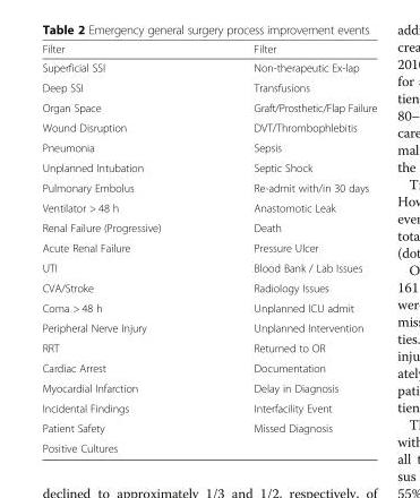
<table><thead><tr><td>Filter</td><td>Filter</td></tr></thead><tbody><tr><td>Superficial SSI</td><td>Non-therapeutic Ex-lap</td></tr><tr><td>Deep SSI</td><td>Transfusions</td></tr><tr><td>Organ Space</td><td>Graft/Prosthetic/Flap Failure</td></tr><tr><td>Wound Disruption</td><td>DVT/Thrombophlebitis</td></tr><tr><td>Pneumonia</td><td>Sepsis</td></tr><tr><td>Unplanned Intubation</td><td>Septic Shock</td></tr><tr><td>Pulmonary Embolus</td><td>Re-admit with/in 30 days</td></tr><tr><td>Ventilator &gt; 48 h</td><td>Anastomotic Leak</td></tr><tr><td>Renal Failure (Progressive)</td><td>Death</td></tr><tr><td>Acute Renal Failure</td><td>Pressure Ulcer</td></tr><tr><td>UTI</td><td>Blood Bank / Lab Issues</td></tr><tr><td>CVA/Stroke</td><td>Radiology Issues</td></tr><tr><td>Coma &gt; 48 h</td><td>Unplanned ICU admit</td></tr><tr><td>Peripheral Nerve Injury</td><td>Unplanned Intervention</td></tr><tr><td>RRT</td><td>Returned to OR</td></tr><tr><td>Cardiac Arrest</td><td>Documentation</td></tr><tr><td>Myocardial Infarction</td><td>Delay in Diagnosis</td></tr><tr><td>Incidental Findings</td><td>Interfacility Event</td></tr><tr><td>Patient Safety</td><td>Missed Diagnosis</td></tr><tr><td>Positive Cultures</td><td></td></tr></tbody></table>